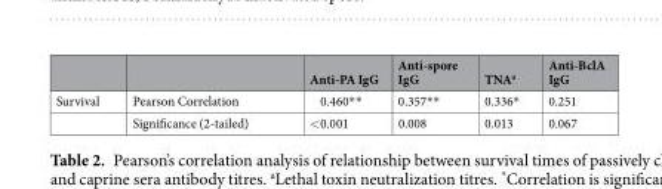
<table><thead><tr><td></td><td></td><td>Anti-PA IgG</td><td>Anti-spore IgG</td><td>TNA<sup>a</sup></td><td>Anti-BclA IgG</td></tr></thead><tbody><tr><td rowspan="2">Survival</td><td>Pearson Correlation</td><td>0.460**</td><td>0.357**</td><td>0.336*</td><td>0.251</td></tr><tr><td>Significance (2-tailed)</td><td>&lt;0.001</td><td>0.008</td><td>0.013</td><td>0.067</td></tr></tbody></table>